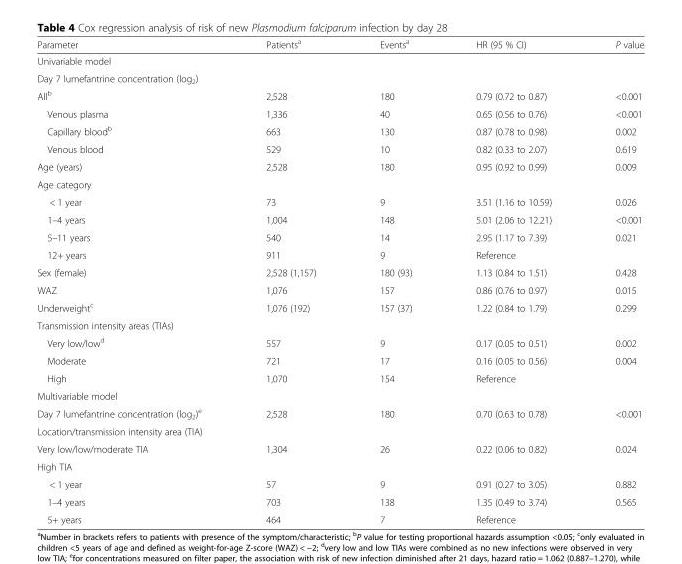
<table><thead><tr><td>Parameter</td><td>Patients<sup>a</sup></td><td>Events<sup>a</sup></td><td>HR (95 % CI)</td><td>P value</td></tr></thead><tbody><tr><td colspan="5">Univariable model</td></tr><tr><td colspan="5">Day 7 lumefantrine concentration (log<sub>2</sub>)</td></tr><tr><td>All<sup>b</sup></td><td>2,528</td><td>180</td><td>0.79 (0.72 to 0.87)</td><td>&lt;0.001</td></tr><tr><td>Venous plasma</td><td>1,336</td><td>40</td><td>0.65 (0.56 to 0.76)</td><td>&lt;0.001</td></tr><tr><td>Capillary blood<sup>b</sup></td><td>663</td><td>130</td><td>0.87 (0.78 to 0.98)</td><td>0.002</td></tr><tr><td>Venous blood</td><td>529</td><td>10</td><td>0.82 (0.33 to 2.07)</td><td>0.619</td></tr><tr><td>Age (years)</td><td>2,528</td><td>180</td><td>0.95 (0.92 to 0.99)</td><td>0.009</td></tr><tr><td colspan="5">Age category</td></tr><tr><td>&lt; 1 year</td><td>73</td><td>9</td><td>3.51 (1.16 to 10.59)</td><td>0.026</td></tr><tr><td>1–4 years</td><td>1,004</td><td>148</td><td>5.01 (2.06 to 12.21)</td><td>&lt;0.001</td></tr><tr><td>5–11 years</td><td>540</td><td>14</td><td>2.95 (1.17 to 7.39)</td><td>0.021</td></tr><tr><td>12+ years</td><td>911</td><td>9</td><td>Reference</td><td></td></tr><tr><td>Sex (female)</td><td>2,528 (1,157)</td><td>180 (93)</td><td>1.13 (0.84 to 1.51)</td><td>0.428</td></tr><tr><td>WAZ</td><td>1,076</td><td>157</td><td>0.86 (0.76 to 0.97)</td><td>0.015</td></tr><tr><td>Underweight<sup>c</sup></td><td>1,076 (192)</td><td>157 (37)</td><td>1.22 (0.84 to 1.79)</td><td>0.299</td></tr><tr><td colspan="5">Transmission intensity areas (TIAs)</td></tr><tr><td>Very low/low<sup>d</sup></td><td>557</td><td>9</td><td>0.17 (0.05 to 0.51)</td><td>0.002</td></tr><tr><td>Moderate</td><td>721</td><td>17</td><td>0.16 (0.05 to 0.56)</td><td>0.004</td></tr><tr><td>High</td><td>1,070</td><td>154</td><td>Reference</td><td></td></tr><tr><td colspan="5">Multivariable model</td></tr><tr><td>Day 7 lumefantrine concentration (log<sub>2</sub>)<sup>e</sup></td><td>2,528</td><td>180</td><td>0.70 (0.63 to 0.78)</td><td>&lt;0.001</td></tr><tr><td colspan="5">Location/transmission intensity area (TIA)</td></tr><tr><td>Very low/low/moderate TIA</td><td>1,304</td><td>26</td><td>0.22 (0.06 to 0.82)</td><td>0.024</td></tr><tr><td colspan="5">High TIA</td></tr><tr><td>&lt; 1 year</td><td>57</td><td>9</td><td>0.91 (0.27 to 3.05)</td><td>0.882</td></tr><tr><td>1–4 years</td><td>703</td><td>138</td><td>1.35 (0.49 to 3.74)</td><td>0.565</td></tr><tr><td>5+ years</td><td>464</td><td>7</td><td>Reference</td><td></td></tr></tbody></table>